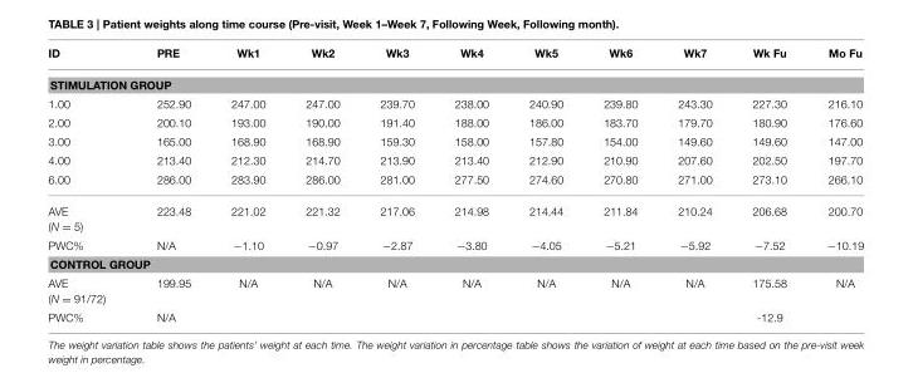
<table><thead><tr><td>ID</td><td>PRE</td><td>Wk1</td><td>Wk2</td><td>Wk3</td><td>Wk4</td><td>Wk5</td><td>Wk6</td><td>Wk7</td><td>Wk Fu</td><td>Mo Fu</td></tr></thead><tbody><tr><td colspan="11">STIMULATION GROUP</td></tr><tr><td>1.00</td><td>252.90</td><td>247.00</td><td>247.00</td><td>239.70</td><td>238.00</td><td>240.90</td><td>239.80</td><td>243.30</td><td>227.30</td><td>216.10</td></tr><tr><td>2.00</td><td>200.10</td><td>193.00</td><td>190.00</td><td>191.40</td><td>188.00</td><td>186.00</td><td>183.70</td><td>179.70</td><td>180.90</td><td>176.60</td></tr><tr><td>3.00</td><td>165.00</td><td>168.90</td><td>168.90</td><td>159.30</td><td>158.00</td><td>157.80</td><td>154.00</td><td>149.60</td><td>149.60</td><td>147.00</td></tr><tr><td>4.00</td><td>213.40</td><td>212.30</td><td>214.70</td><td>213.90</td><td>213.40</td><td>212.90</td><td>210.90</td><td>207.60</td><td>202.50</td><td>197.70</td></tr><tr><td>6.00</td><td>286.00</td><td>283.90</td><td>286.00</td><td>281.00</td><td>277.50</td><td>274.60</td><td>270.80</td><td>271.00</td><td>273.10</td><td>266.10</td></tr><tr><td>AVE (N = 5)</td><td>223.48</td><td>221.02</td><td>221.32</td><td>217.06</td><td>214.98</td><td>214.44</td><td>211.84</td><td>210.24</td><td>206.68</td><td>200.70</td></tr><tr><td>PWC%</td><td>N/A</td><td>−1.10</td><td>−0.97</td><td>−2.87</td><td>−3.80</td><td>−4.05</td><td>−5.21</td><td>−5.92</td><td>−7.52</td><td>−10.19</td></tr><tr><td colspan="11">CONTROL GROUP</td></tr><tr><td>AVE (N = 91/72)</td><td>199.95</td><td>N/A</td><td>N/A</td><td>N/A</td><td>N/A</td><td>N/A</td><td>N/A</td><td>N/A</td><td>175.58</td><td>N/A</td></tr><tr><td>PWC%</td><td>N/A</td><td></td><td></td><td></td><td></td><td></td><td></td><td></td><td>-12.9</td><td></td></tr></tbody></table>